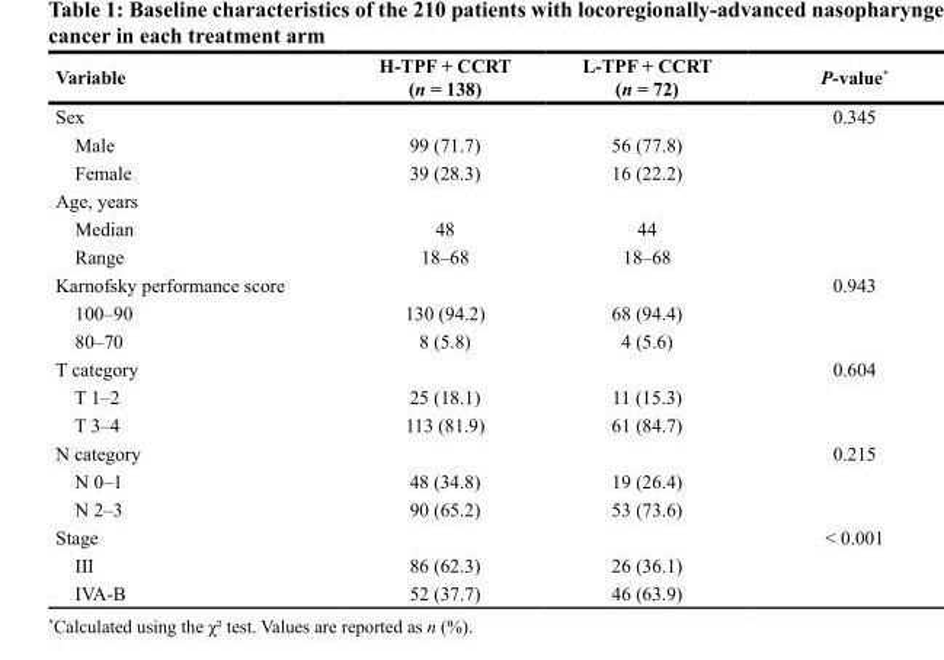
<table><thead><tr><td>Variable</td><td>H-TPF + CCRT (n = 138)</td><td>L-TPF + CCRT (n = 72)</td><td>P-value*</td></tr></thead><tbody><tr><td>Sex</td><td></td><td></td><td>0.345</td></tr><tr><td>Male</td><td>99 (71.7)</td><td>56 (77.8)</td><td></td></tr><tr><td>Female</td><td>39 (28.3)</td><td>16 (22.2)</td><td></td></tr><tr><td colspan="4">Age, years</td></tr><tr><td>Median</td><td>48</td><td>44</td><td></td></tr><tr><td>Range</td><td>18–68</td><td>18–68</td><td></td></tr><tr><td>Karnofsky performance score</td><td></td><td></td><td>0.943</td></tr><tr><td>100–90</td><td>130 (94.2)</td><td>68 (94.4)</td><td></td></tr><tr><td>80–70</td><td>8 (5.8)</td><td>4 (5.6)</td><td></td></tr><tr><td>T category</td><td></td><td></td><td>0.604</td></tr><tr><td>T 1–2</td><td>25 (18.1)</td><td>11 (15.3)</td><td></td></tr><tr><td>T 3–4</td><td>113 (81.9)</td><td>61 (84.7)</td><td></td></tr><tr><td>N category</td><td></td><td></td><td>0.215</td></tr><tr><td>N 0–1</td><td>48 (34.8)</td><td>19 (26.4)</td><td></td></tr><tr><td>N 2–3</td><td>90 (65.2)</td><td>53 (73.6)</td><td></td></tr><tr><td>Stage</td><td></td><td></td><td>&lt; 0.001</td></tr><tr><td>III</td><td>86 (62.3)</td><td>26 (36.1)</td><td></td></tr><tr><td>IVA-B</td><td>52 (37.7)</td><td>46 (63.9)</td><td></td></tr></tbody></table>